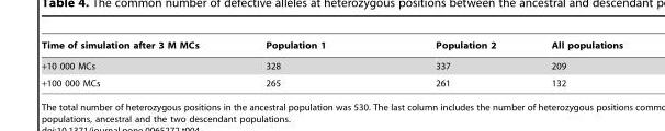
<table><thead><tr><td>Time of simulation after 3 M MCs</td><td>Population 1</td><td>Population 2</td><td>All populations</td></tr></thead><tbody><tr><td>+10 000 MCs</td><td>328</td><td>337</td><td>209</td></tr><tr><td>+100 000 MCs</td><td>265</td><td>261</td><td>132</td></tr></tbody></table>